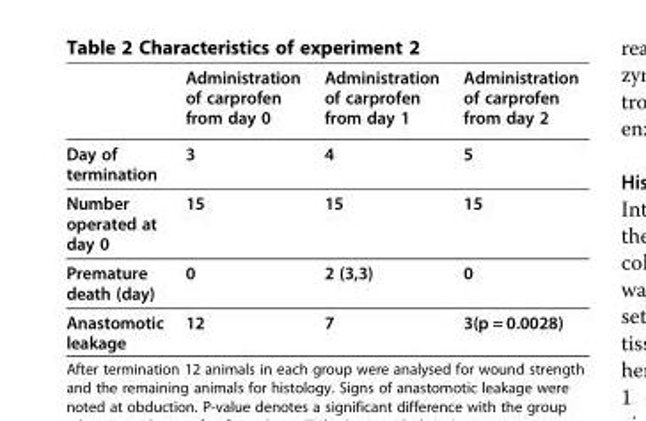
<table><thead><tr><td></td><td>Administration of carprofen from day 0</td><td>Administration of carprofen from day 1</td><td>Administration of carprofen from day 2</td></tr></thead><tbody><tr><td>Day of termination</td><td>3</td><td>4</td><td>5</td></tr><tr><td>Number operated at day 0</td><td>15</td><td>15</td><td>15</td></tr><tr><td>Premature death (day)</td><td>0</td><td>2 (3,3)</td><td>0</td></tr><tr><td>Anastomotic leakage</td><td>12</td><td>7</td><td>3(p = 0.0028)</td></tr></tbody></table>